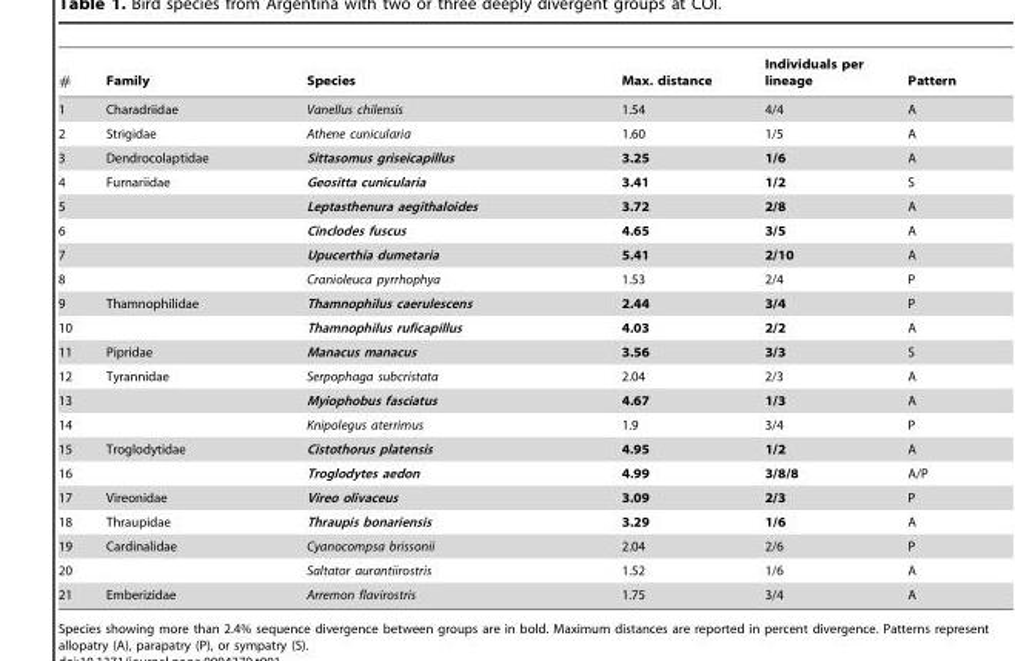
<table><thead><tr><td>#</td><td>Family</td><td>Species</td><td>Max. distance</td><td>Individuals per lineage</td><td>Pattern</td></tr></thead><tbody><tr><td>1</td><td>Charadriidae</td><td>Vanellus chilensis</td><td>1.54</td><td>4/4</td><td>A</td></tr><tr><td>2</td><td>Strigidae</td><td>Athene cunicularia</td><td>1.60</td><td>1/5</td><td>A</td></tr><tr><td>3</td><td>Dendrocolaptidae</td><td>Sittasomus griseicapillus</td><td>3.25</td><td>1/6</td><td>A</td></tr><tr><td>4</td><td>Furnariidae</td><td>Geositta cunicularia</td><td>3.41</td><td>1/2</td><td>S</td></tr><tr><td>5</td><td></td><td>Leptasthenura aegithaloides</td><td>3.72</td><td>2/8</td><td>A</td></tr><tr><td>6</td><td></td><td>Cinclodes fuscus</td><td>4.65</td><td>3/5</td><td>A</td></tr><tr><td>7</td><td></td><td>Upucerthia dumetaria</td><td>5.41</td><td>2/10</td><td>A</td></tr><tr><td>8</td><td></td><td>Cranioleuca pyrrhophya</td><td>1.53</td><td>2/4</td><td>P</td></tr><tr><td>9</td><td>Thamnophilidae</td><td>Thamnophilus caerulescens</td><td>2.44</td><td>3/4</td><td>P</td></tr><tr><td>10</td><td></td><td>Thamnophilus ruficapillus</td><td>4.03</td><td>2/2</td><td>A</td></tr><tr><td>11</td><td>Pipridae</td><td>Manacus manacus</td><td>3.56</td><td>3/3</td><td>S</td></tr><tr><td>12</td><td>Tyrannidae</td><td>Serpophaga subcristata</td><td>2.04</td><td>2/3</td><td>A</td></tr><tr><td>13</td><td></td><td>Myiophobus fasciatus</td><td>4.67</td><td>1/3</td><td>A</td></tr><tr><td>14</td><td></td><td>Knipolegus aterrimus</td><td>1.9</td><td>3/4</td><td>P</td></tr><tr><td>15</td><td>Troglodytidae</td><td>Cistothorus platensis</td><td>4.95</td><td>1/2</td><td>A</td></tr><tr><td>16</td><td></td><td>Troglodytes aedon</td><td>4.99</td><td>3/8/8</td><td>A/P</td></tr><tr><td>17</td><td>Vireonidae</td><td>Vireo olivaceus</td><td>3.09</td><td>2/3</td><td>P</td></tr><tr><td>18</td><td>Thraupidae</td><td>Thraupis bonariensis</td><td>3.29</td><td>1/6</td><td>A</td></tr><tr><td>19</td><td>Cardinalidae</td><td>Cyanocompsa brissonii</td><td>2.04</td><td>2/6</td><td>P</td></tr><tr><td>20</td><td></td><td>Saltator aurantiirostris</td><td>1.52</td><td>1/6</td><td>A</td></tr><tr><td>21</td><td>Emberizidae</td><td>Arremon flavirostris</td><td>1.75</td><td>3/4</td><td>A</td></tr></tbody></table>